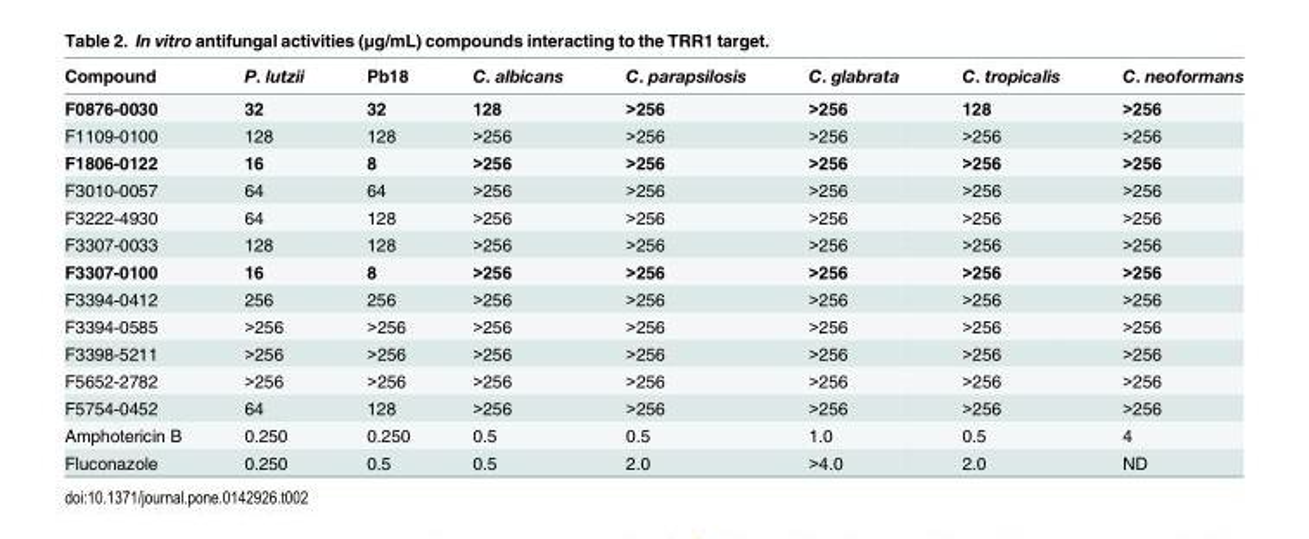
<table><thead><tr><td>Compound</td><td>P. lutzii</td><td>Pb18</td><td>C. albicans</td><td>C. parapsilosis</td><td>C. glabrata</td><td>C. tropicalis</td><td>C. neoformans</td></tr></thead><tbody><tr><td>F0876-0030</td><td>32</td><td>32</td><td>128</td><td>&gt;256</td><td>&gt;256</td><td>128</td><td>&gt;256</td></tr><tr><td>F1109-0100</td><td>128</td><td>128</td><td>&gt;256</td><td>&gt;256</td><td>&gt;256</td><td>&gt;256</td><td>&gt;256</td></tr><tr><td>F1806-0122</td><td>16</td><td>8</td><td>&gt;256</td><td>&gt;256</td><td>&gt;256</td><td>&gt;256</td><td>&gt;256</td></tr><tr><td>F3010-0057</td><td>64</td><td>64</td><td>&gt;256</td><td>&gt;256</td><td>&gt;256</td><td>&gt;256</td><td>&gt;256</td></tr><tr><td>F3222-4930</td><td>64</td><td>128</td><td>&gt;256</td><td>&gt;256</td><td>&gt;256</td><td>&gt;256</td><td>&gt;256</td></tr><tr><td>F3307-0033</td><td>128</td><td>128</td><td>&gt;256</td><td>&gt;256</td><td>&gt;256</td><td>&gt;256</td><td>&gt;256</td></tr><tr><td>F3307-0100</td><td>16</td><td>8</td><td>&gt;256</td><td>&gt;256</td><td>&gt;256</td><td>&gt;256</td><td>&gt;256</td></tr><tr><td>F3394-0412</td><td>256</td><td>256</td><td>&gt;256</td><td>&gt;256</td><td>&gt;256</td><td>&gt;256</td><td>&gt;256</td></tr><tr><td>F3394-0585</td><td>&gt;256</td><td>&gt;256</td><td>&gt;256</td><td>&gt;256</td><td>&gt;256</td><td>&gt;256</td><td>&gt;256</td></tr><tr><td>F3398-5211</td><td>&gt;256</td><td>&gt;256</td><td>&gt;256</td><td>&gt;256</td><td>&gt;256</td><td>&gt;256</td><td>&gt;256</td></tr><tr><td>F5652-2782</td><td>&gt;256</td><td>&gt;256</td><td>&gt;256</td><td>&gt;256</td><td>&gt;256</td><td>&gt;256</td><td>&gt;256</td></tr><tr><td>F5754-0452</td><td>64</td><td>128</td><td>&gt;256</td><td>&gt;256</td><td>&gt;256</td><td>&gt;256</td><td>&gt;256</td></tr><tr><td>Amphotericin B</td><td>0.250</td><td>0.250</td><td>0.5</td><td>0.5</td><td>1.0</td><td>0.5</td><td>4</td></tr><tr><td>Fluconazole</td><td>0.250</td><td>0.5</td><td>0.5</td><td>2.0</td><td>&gt;4.0</td><td>2.0</td><td>ND</td></tr></tbody></table>